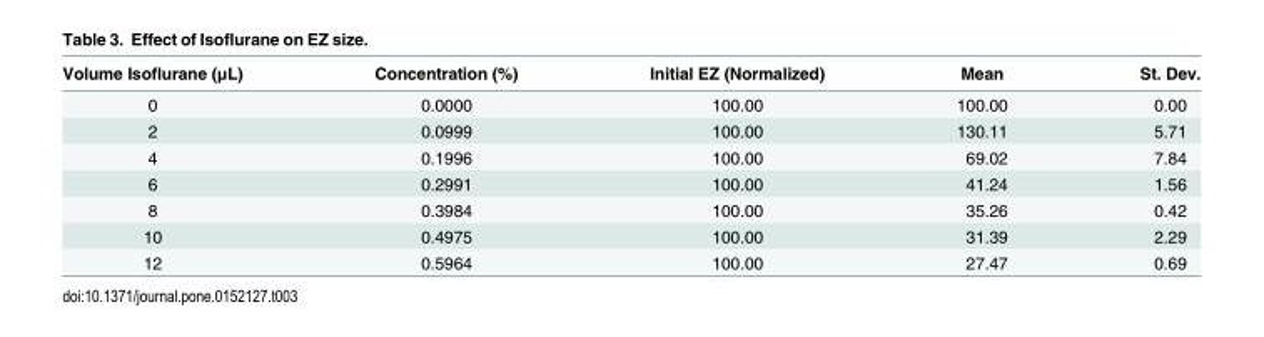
<table><thead><tr><td>Volume Isoflurane (μL)</td><td>Concentration (%)</td><td>Initial EZ (Normalized)</td><td>Mean</td><td>St. Dev.</td></tr></thead><tbody><tr><td>0</td><td>0.0000</td><td>100.00</td><td>100.00</td><td>0.00</td></tr><tr><td>2</td><td>0.0999</td><td>100.00</td><td>130.11</td><td>5.71</td></tr><tr><td>4</td><td>0.1996</td><td>100.00</td><td>69.02</td><td>7.84</td></tr><tr><td>6</td><td>0.2991</td><td>100.00</td><td>41.24</td><td>1.56</td></tr><tr><td>8</td><td>0.3984</td><td>100.00</td><td>35.26</td><td>0.42</td></tr><tr><td>10</td><td>0.4975</td><td>100.00</td><td>31.39</td><td>2.29</td></tr><tr><td>12</td><td>0.5964</td><td>100.00</td><td>27.47</td><td>0.69</td></tr></tbody></table>